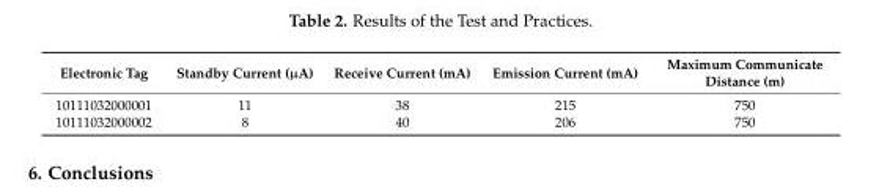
<table><thead><tr><td>Electronic Tag</td><td>Standby Current (µA)</td><td>Receive Current (mA)</td><td>Emission Current (mA)</td><td>Maximum Communicate Distance (m)</td></tr></thead><tbody><tr><td>10111032000001</td><td>11</td><td>38</td><td>215</td><td>750</td></tr><tr><td>10111032000002</td><td>8</td><td>40</td><td>206</td><td>750</td></tr></tbody></table>